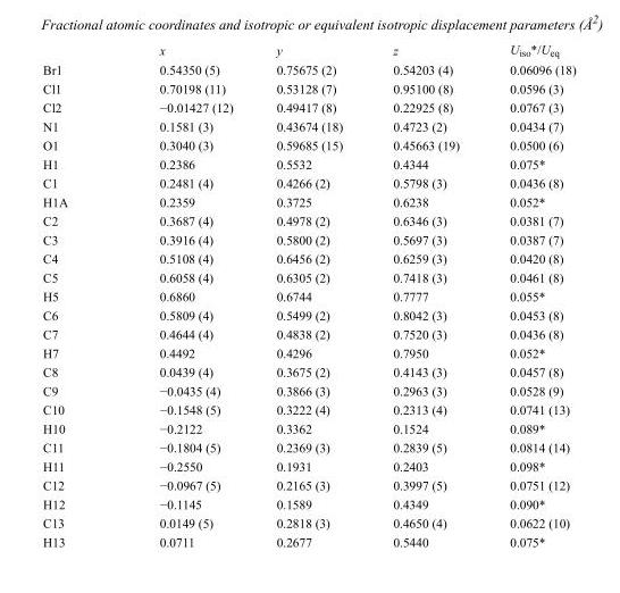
<table><thead><tr><td></td><td>x</td><td>y</td><td>z</td><td>U<sub>iso</sub>*/U<sub>eq</sub></td></tr></thead><tbody><tr><td>Br1</td><td>0.54350 (5)</td><td>0.75675 (2)</td><td>0.54203 (4)</td><td>0.06096 (18)</td></tr><tr><td>Cl1</td><td>0.70198 (11)</td><td>0.53128 (7)</td><td>0.95100 (8)</td><td>0.0596 (3)</td></tr><tr><td>Cl2</td><td>−0.01427 (12)</td><td>0.49417 (8)</td><td>0.22925 (8)</td><td>0.0767 (3)</td></tr><tr><td>N1</td><td>0.1581 (3)</td><td>0.43674 (18)</td><td>0.4723 (2)</td><td>0.0434 (7)</td></tr><tr><td>O1</td><td>0.3040 (3)</td><td>0.59685 (15)</td><td>0.45663 (19)</td><td>0.0500 (6)</td></tr><tr><td>H1</td><td>0.2386</td><td>0.5532</td><td>0.4344</td><td>0.075*</td></tr><tr><td>C1</td><td>0.2481 (4)</td><td>0.4266 (2)</td><td>0.5798 (3)</td><td>0.0436 (8)</td></tr><tr><td>H1A</td><td>0.2359</td><td>0.3725</td><td>0.6238</td><td>0.052*</td></tr><tr><td>C2</td><td>0.3687 (4)</td><td>0.4978 (2)</td><td>0.6346 (3)</td><td>0.0381 (7)</td></tr><tr><td>C3</td><td>0.3916 (4)</td><td>0.5800 (2)</td><td>0.5697 (3)</td><td>0.0387 (7)</td></tr><tr><td>C4</td><td>0.5108 (4)</td><td>0.6456 (2)</td><td>0.6259 (3)</td><td>0.0420 (8)</td></tr><tr><td>C5</td><td>0.6058 (4)</td><td>0.6305 (2)</td><td>0.7418 (3)</td><td>0.0461 (8)</td></tr><tr><td>H5</td><td>0.6860</td><td>0.6744</td><td>0.7777</td><td>0.055*</td></tr><tr><td>C6</td><td>0.5809 (4)</td><td>0.5499 (2)</td><td>0.8042 (3)</td><td>0.0453 (8)</td></tr><tr><td>C7</td><td>0.4644 (4)</td><td>0.4838 (2)</td><td>0.7520 (3)</td><td>0.0436 (8)</td></tr><tr><td>H7</td><td>0.4492</td><td>0.4296</td><td>0.7950</td><td>0.052*</td></tr><tr><td>C8</td><td>0.0439 (4)</td><td>0.3675 (2)</td><td>0.4143 (3)</td><td>0.0457 (8)</td></tr><tr><td>C9</td><td>−0.0435 (4)</td><td>0.3866 (3)</td><td>0.2963 (3)</td><td>0.0528 (9)</td></tr><tr><td>C10</td><td>−0.1548 (5)</td><td>0.3222 (4)</td><td>0.2313 (4)</td><td>0.0741 (13)</td></tr><tr><td>H10</td><td>−0.2122</td><td>0.3362</td><td>0.1524</td><td>0.089*</td></tr><tr><td>C11</td><td>−0.1804 (5)</td><td>0.2369 (3)</td><td>0.2839 (5)</td><td>0.0814 (14)</td></tr><tr><td>H11</td><td>−0.2550</td><td>0.1931</td><td>0.2403</td><td>0.098*</td></tr><tr><td>C12</td><td>−0.0967 (5)</td><td>0.2165 (3)</td><td>0.3997 (5)</td><td>0.0751 (12)</td></tr><tr><td>H12</td><td>−0.1145</td><td>0.1589</td><td>0.4349</td><td>0.090*</td></tr><tr><td>C13</td><td>0.0149 (5)</td><td>0.2818 (3)</td><td>0.4650 (4)</td><td>0.0622 (10)</td></tr><tr><td>H13</td><td>0.0711</td><td>0.2677</td><td>0.5440</td><td>0.075*</td></tr></tbody></table>